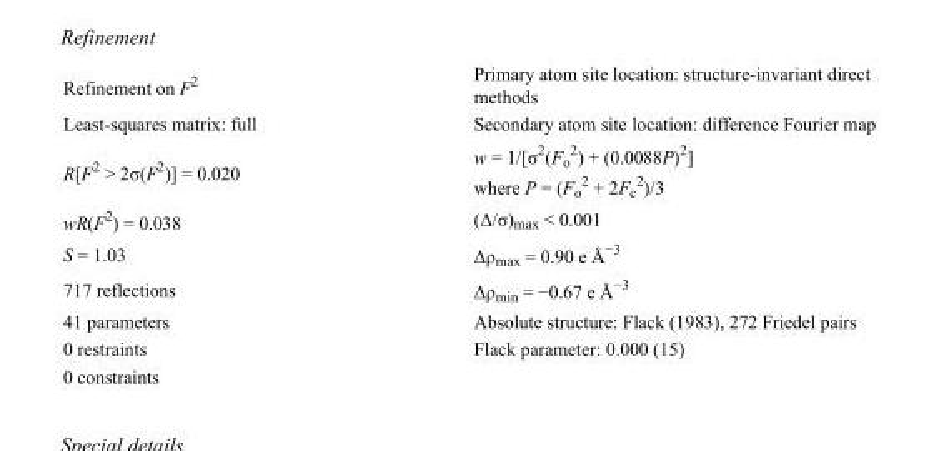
<table><tbody><tr><td>Refinement on F<sup>2</sup></td><td>Primary atom site location: structure-invariant direct methods</td></tr><tr><td>Least-squares matrix: full</td><td>Secondary atom site location: difference Fourier map</td></tr><tr><td>R[F<sup>2</sup> &gt; 2σ(F<sup>2</sup>)] = 0.020</td><td>w = 1/[σ<sup>2</sup>(F<sub>o</sub> <sup>2</sup>) + (0.0088P)<sup>2</sup>] where P = (F<sub>o</sub> <sup>2</sup> + 2F<sub>c</sub> <sup>2</sup>)/3</td></tr><tr><td>wR(F<sup>2</sup>) = 0.038</td><td>(Δ/σ)<sub>max</sub> &lt; 0.001</td></tr><tr><td>S = 1.03</td><td>Δρ<sub>max</sub> = 0.90 e Å<sup>−3</sup></td></tr><tr><td>717 reflections</td><td>Δρ<sub>min</sub> = −0.67 e Å<sup>−3</sup></td></tr><tr><td>41 parameters</td><td>Absolute structure: Flack (1983), 272 Friedel pairs</td></tr><tr><td>0 restraints</td><td>Flack parameter: 0.000 (15)</td></tr><tr><td>0 constraints</td><td></td></tr></tbody></table>